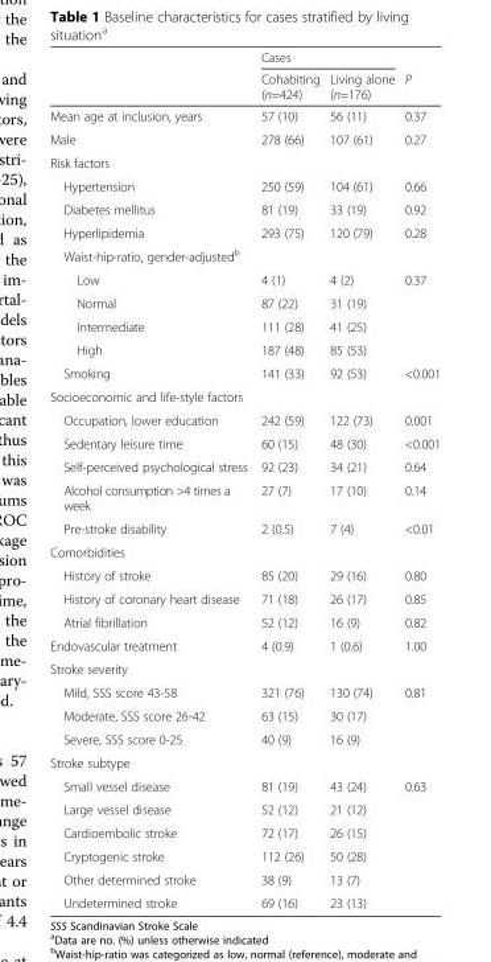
<table><thead><tr><td rowspan="2"></td><td colspan="2">Cases</td><td rowspan="2">P</td></tr><tr><td>Cohabiting (n=424)</td><td>Living alone (n=176)</td></tr></thead><tbody><tr><td>Mean age at inclusion, years</td><td>57 (10)</td><td>56 (11)</td><td>0.37</td></tr><tr><td>Male</td><td>278 (66)</td><td>107 (61)</td><td>0.27</td></tr><tr><td colspan="4">Risk factors</td></tr><tr><td>Hypertension</td><td>250 (59)</td><td>104 (61)</td><td>0.66</td></tr><tr><td>Diabetes mellitus</td><td>81 (19)</td><td>33 (19)</td><td>0.92</td></tr><tr><td>Hyperlipidemia</td><td>293 (75)</td><td>120 (79)</td><td>0.28</td></tr><tr><td colspan="4">Waist-hip-ratio, gender-adjusted<sup>b</sup></td></tr><tr><td>Low</td><td>4 (1)</td><td>4 (2)</td><td>0.37</td></tr><tr><td>Normal</td><td>87 (22)</td><td>31 (19)</td><td></td></tr><tr><td>Intermediate</td><td>111 (28)</td><td>41 (25)</td><td></td></tr><tr><td>High</td><td>187 (48)</td><td>85 (53)</td><td></td></tr><tr><td>Smoking</td><td>141 (33)</td><td>92 (53)</td><td>&lt;0.001</td></tr><tr><td colspan="4">Socioeconomic and life-style factors</td></tr><tr><td>Occupation, lower education</td><td>242 (59)</td><td>122 (73)</td><td>0.001</td></tr><tr><td>Sedentary leisure time</td><td>60 (15)</td><td>48 (30)</td><td>&lt;0.001</td></tr><tr><td>Self-perceived psychological stress</td><td>92 (23)</td><td>34 (21)</td><td>0.64</td></tr><tr><td>Alcohol consumption &gt;4 times a week</td><td>27 (7)</td><td>17 (10)</td><td>0.14</td></tr><tr><td>Pre-stroke disability</td><td>2 (0.5)</td><td>7 (4)</td><td>&lt;0.01</td></tr><tr><td colspan="4">Comorbidities</td></tr><tr><td>History of stroke</td><td>85 (20)</td><td>29 (16)</td><td>0.80</td></tr><tr><td>History of coronary heart disease</td><td>71 (18)</td><td>26 (17)</td><td>0.85</td></tr><tr><td>Atrial fibrillation</td><td>52 (12)</td><td>16 (9)</td><td>0.82</td></tr><tr><td>Endovascular treatment</td><td>4 (0.9)</td><td>1 (0.6)</td><td>1.00</td></tr><tr><td colspan="4">Stroke severity</td></tr><tr><td>Mild, SSS score 43-58</td><td>321 (76)</td><td>130 (74)</td><td>0.81</td></tr><tr><td>Moderate, SSS score 26-42</td><td>63 (15)</td><td>30 (17)</td><td></td></tr><tr><td>Severe, SSS score 0-25</td><td>40 (9)</td><td>16 (9)</td><td></td></tr><tr><td colspan="4">Stroke subtype</td></tr><tr><td>Small vessel disease</td><td>81 (19)</td><td>43 (24)</td><td>0.63</td></tr><tr><td>Large vessel disease</td><td>52 (12)</td><td>21 (12)</td><td></td></tr><tr><td>Cardioembolic stroke</td><td>72 (17)</td><td>26 (15)</td><td></td></tr><tr><td>Cryptogenic stroke</td><td>112 (26)</td><td>50 (28)</td><td></td></tr><tr><td>Other determined stroke</td><td>38 (9)</td><td>13 (7)</td><td></td></tr><tr><td>Undetermined stroke</td><td>69 (16)</td><td>23 (13)</td><td></td></tr></tbody></table>